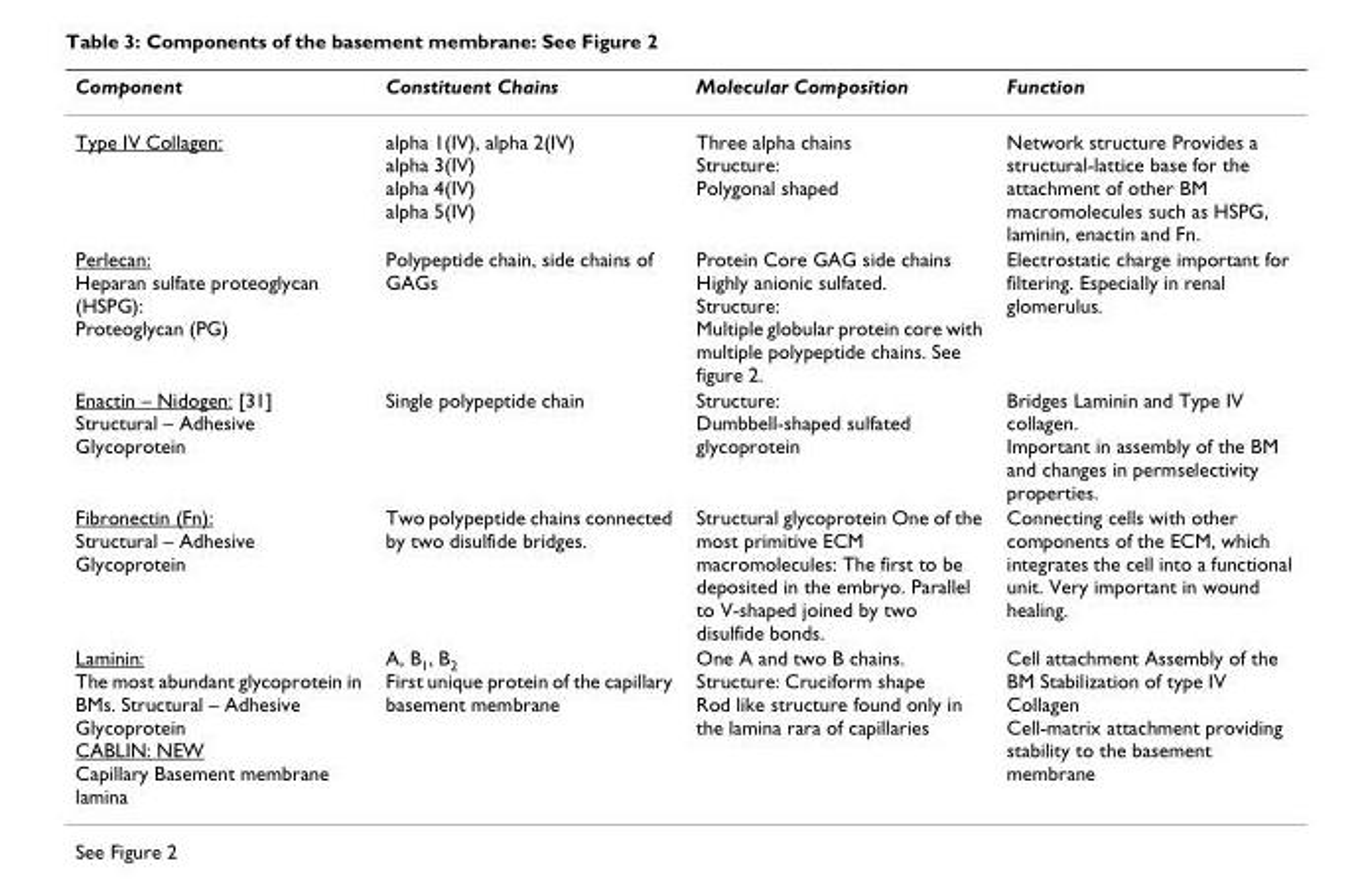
<table><thead><tr><td>Component</td><td>Constituent Chains</td><td>Molecular Composition</td><td>Function</td></tr></thead><tbody><tr><td>Type IV Collagen:</td><td>alpha 1(IV), alpha 2(IV) alpha 3(IV) alpha 4(IV) alpha 5(IV)</td><td>Three alpha chains Structure: Polygonal shaped</td><td>Network structure Provides a structural-lattice base for the attachment of other BM macromolecules such as HSPG, laminin, enactin and Fn.</td></tr><tr><td>Perlecan: Heparan sulfate proteoglycan (HSPG): Proteoglycan (PG)</td><td>Polypeptide chain, side chains of GAGs</td><td>Protein Core GAG side chains Highly anionic sulfated. Structure: Multiple globular protein core with multiple polypeptide chains. See figure 2.</td><td>Electrostatic charge important for filtering. Especially in renal glomerulus.</td></tr><tr><td>Enactin – Nidogen: [31] Structural – Adhesive Glycoprotein</td><td>Single polypeptide chain</td><td>Structure: Dumbbell-shaped sulfated glycoprotein</td><td>Bridges Laminin and Type IV collagen. Important in assembly of the BM and changes in permselectivity properties.</td></tr><tr><td>Fibronectin (Fn): Structural – Adhesive Glycoprotein</td><td>Two polypeptide chains connected by two disulfide bridges.</td><td>Structural glycoprotein One of the most primitive ECM macromolecules: The first to be deposited in the embryo. Parallel to V-shaped joined by two disulfide bonds.</td><td>Connecting cells with other components of the ECM, which integrates the cell into a functional unit. Very important in wound healing.</td></tr><tr><td>Laminin: The most abundant glycoprotein in BMs. Structural – Adhesive Glycoprotein CABLIN: NEW Capillary Basement membrane lamina</td><td>A, B<sub>1</sub>, B<sub>2</sub> First unique protein of the capillary basement membrane</td><td>One A and two B chains. Structure: Cruciform shape Rod like structure found only in the lamina rara of capillaries</td><td>Cell attachment Assembly of the BM Stabilization of type IV Collagen Cell-matrix attachment providing stability to the basement membrane</td></tr></tbody></table>